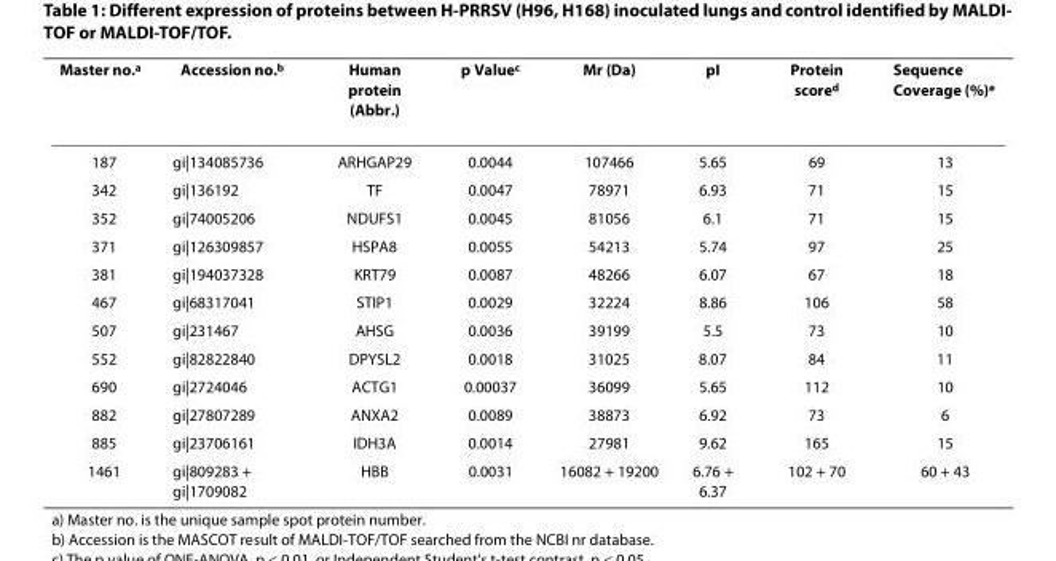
<table><thead><tr><td>Master no.<sup>a</sup></td><td>Accession no.<sup>b</sup></td><td>Human protein (Abbr.)</td><td>p Value<sup>c</sup></td><td>Mr (Da)</td><td>pI</td><td>Protein score<sup>d</sup></td><td>Sequence Coverage (%)<sup>e</sup></td></tr></thead><tbody><tr><td>187</td><td>gi|134085736</td><td>ARHGAP29</td><td>0.0044</td><td>107466</td><td>5.65</td><td>69</td><td>13</td></tr><tr><td>342</td><td>gi|136192</td><td>TF</td><td>0.0047</td><td>78971</td><td>6.93</td><td>71</td><td>15</td></tr><tr><td>352</td><td>gi|74005206</td><td>NDUFS1</td><td>0.0045</td><td>81056</td><td>6.1</td><td>71</td><td>15</td></tr><tr><td>371</td><td>gi|126309857</td><td>HSPA8</td><td>0.0055</td><td>54213</td><td>5.74</td><td>97</td><td>25</td></tr><tr><td>381</td><td>gi|194037328</td><td>KRT79</td><td>0.0087</td><td>48266</td><td>6.07</td><td>67</td><td>18</td></tr><tr><td>467</td><td>gi|68317041</td><td>STIP1</td><td>0.0029</td><td>32224</td><td>8.86</td><td>106</td><td>58</td></tr><tr><td>507</td><td>gi|231467</td><td>AHSG</td><td>0.0036</td><td>39199</td><td>5.5</td><td>73</td><td>10</td></tr><tr><td>552</td><td>gi|82822840</td><td>DPYSL2</td><td>0.0018</td><td>31025</td><td>8.07</td><td>84</td><td>11</td></tr><tr><td>690</td><td>gi|2724046</td><td>ACTG1</td><td>0.00037</td><td>36099</td><td>5.65</td><td>112</td><td>10</td></tr><tr><td>882</td><td>gi|27807289</td><td>ANXA2</td><td>0.0089</td><td>38873</td><td>6.92</td><td>73</td><td>6</td></tr><tr><td>885</td><td>gi|23706161</td><td>IDH3A</td><td>0.0014</td><td>27981</td><td>9.62</td><td>165</td><td>15</td></tr><tr><td>1461</td><td>gi|809283 + gi|1709082</td><td>HBB</td><td>0.0031</td><td>16082 + 19200</td><td>6.76 + 6.37</td><td>102 + 70</td><td>60 + 43</td></tr></tbody></table>